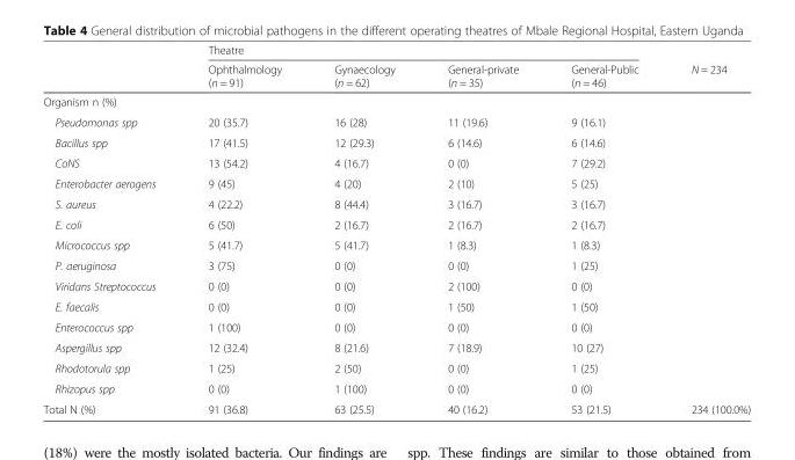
<table><thead><tr><td rowspan="2"></td><td colspan="4">Theatre</td><td rowspan="2">N = 234</td></tr><tr><td>Ophthalmology (n = 91)</td><td>Gynaecology (n = 62)</td><td>General-private (n = 35)</td><td>General-Public (n = 46)</td></tr></thead><tbody><tr><td colspan="6">Organism n (%)</td></tr><tr><td>Pseudomonas spp</td><td>20 (35.7)</td><td>16 (28)</td><td>11 (19.6)</td><td>9 (16.1)</td><td></td></tr><tr><td>Bacillus spp</td><td>17 (41.5)</td><td>12 (29.3)</td><td>6 (14.6)</td><td>6 (14.6)</td><td></td></tr><tr><td>CoNS</td><td>13 (54.2)</td><td>4 (16.7)</td><td>0 (0)</td><td>7 (29.2)</td><td></td></tr><tr><td>Enterobacter aerogens</td><td>9 (45)</td><td>4 (20)</td><td>2 (10)</td><td>5 (25)</td><td></td></tr><tr><td>S. aureus</td><td>4 (22.2)</td><td>8 (44.4)</td><td>3 (16.7)</td><td>3 (16.7)</td><td></td></tr><tr><td>E. coli</td><td>6 (50)</td><td>2 (16.7)</td><td>2 (16.7)</td><td>2 (16.7)</td><td></td></tr><tr><td>Micrococcus spp</td><td>5 (41.7)</td><td>5 (41.7)</td><td>1 (8.3)</td><td>1 (8.3)</td><td></td></tr><tr><td>P. aeruginosa</td><td>3 (75)</td><td>0 (0)</td><td>0 (0)</td><td>1 (25)</td><td></td></tr><tr><td>Viridans Streptococcus</td><td>0 (0)</td><td>0 (0)</td><td>2 (100)</td><td>0 (0)</td><td></td></tr><tr><td>E. faecalis</td><td>0 (0)</td><td>0 (0)</td><td>1 (50)</td><td>1 (50)</td><td></td></tr><tr><td>Enterococcus spp</td><td>1 (100)</td><td>0 (0)</td><td>0 (0)</td><td>0 (0)</td><td></td></tr><tr><td>Aspergillus spp</td><td>12 (32.4)</td><td>8 (21.6)</td><td>7 (18.9)</td><td>10 (27)</td><td></td></tr><tr><td>Rhodotorula spp</td><td>1 (25)</td><td>2 (50)</td><td>0 (0)</td><td>1 (25)</td><td></td></tr><tr><td>Rhizopus spp</td><td>0 (0)</td><td>1 (100)</td><td>0 (0)</td><td>0 (0)</td><td></td></tr><tr><td>Total N (%)</td><td>91 (36.8)</td><td>63 (25.5)</td><td>40 (16.2)</td><td>53 (21.5)</td><td>234 (100.0%)</td></tr></tbody></table>